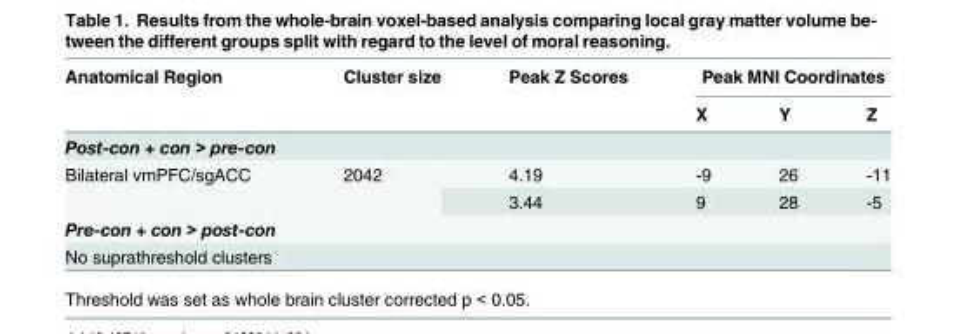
<table><thead><tr><td rowspan="2">Anatomical Region</td><td rowspan="2">Cluster size</td><td rowspan="2">Peak Z Scores</td><td colspan="3">Peak MNI Coordinates</td></tr><tr><td>X</td><td>Y</td><td>Z</td></tr></thead><tbody><tr><td colspan="6">Post-con + con &gt; pre-con</td></tr><tr><td rowspan="2">Bilateral vmPFC/sgACC</td><td rowspan="2">2042</td><td>4.19</td><td>-9</td><td>26</td><td>-11</td></tr><tr><td>3.44</td><td>9</td><td>28</td><td>-5</td></tr><tr><td colspan="6">Pre-con + con &gt; post-con</td></tr><tr><td>No suprathreshold clusters</td><td></td><td></td><td></td><td></td><td></td></tr></tbody></table>